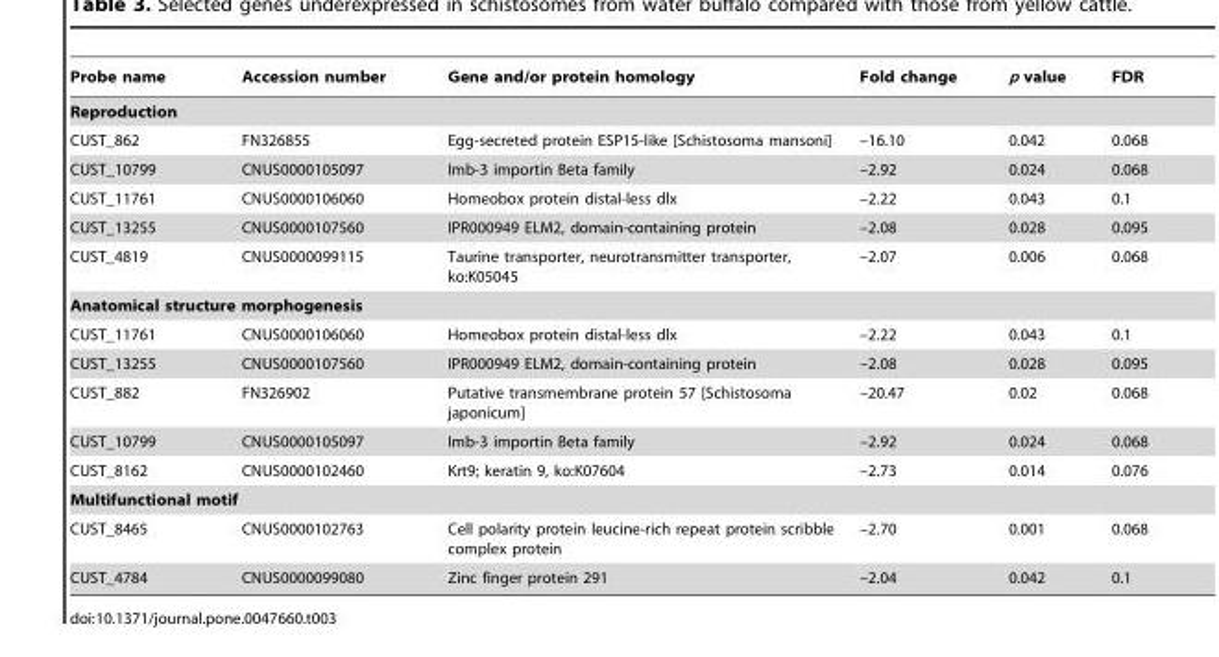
<table><thead><tr><td>Probe name</td><td>Accession number</td><td>Gene and/or protein homology</td><td>Fold change</td><td>p value</td><td>FDR</td></tr></thead><tbody><tr><td colspan="6">Reproduction</td></tr><tr><td>CUST_862</td><td>FN326855</td><td>Egg-secreted protein ESP15-like [Schistosoma mansoni]</td><td>–16.10</td><td>0.042</td><td>0.068</td></tr><tr><td>CUST_10799</td><td>CNUS0000105097</td><td>Imb-3 importin Beta family</td><td>–2.92</td><td>0.024</td><td>0.068</td></tr><tr><td>CUST_11761</td><td>CNUS0000106060</td><td>Homeobox protein distal-less dlx</td><td>–2.22</td><td>0.043</td><td>0.1</td></tr><tr><td>CUST_13255</td><td>CNUS0000107560</td><td>IPR000949 ELM2, domain-containing protein</td><td>–2.08</td><td>0.028</td><td>0.095</td></tr><tr><td>CUST_4819</td><td>CNUS0000099115</td><td>Taurine transporter, neurotransmitter transporter, ko:K05045</td><td>–2.07</td><td>0.006</td><td>0.068</td></tr><tr><td colspan="6">Anatomical structure morphogenesis</td></tr><tr><td>CUST_11761</td><td>CNUS0000106060</td><td>Homeobox protein distal-less dlx</td><td>–2.22</td><td>0.043</td><td>0.1</td></tr><tr><td>CUST_13255</td><td>CNUS0000107560</td><td>IPR000949 ELM2, domain-containing protein</td><td>–2.08</td><td>0.028</td><td>0.095</td></tr><tr><td>CUST_882</td><td>FN326902</td><td>Putative transmembrane protein 57 [Schistosoma japonicum]</td><td>–20.47</td><td>0.02</td><td>0.068</td></tr><tr><td>CUST_10799</td><td>CNUS0000105097</td><td>Imb-3 importin Beta family</td><td>–2.92</td><td>0.024</td><td>0.068</td></tr><tr><td>CUST_8162</td><td>CNUS0000102460</td><td>Krt9; keratin 9, ko:K07604</td><td>–2.73</td><td>0.014</td><td>0.076</td></tr><tr><td colspan="6">Multifunctional motif</td></tr><tr><td>CUST_8465</td><td>CNUS0000102763</td><td>Cell polarity protein leucine-rich repeat protein scribble complex protein</td><td>–2.70</td><td>0.001</td><td>0.068</td></tr><tr><td>CUST_4784</td><td>CNUS0000099080</td><td>Zinc finger protein 291</td><td>–2.04</td><td>0.042</td><td>0.1</td></tr></tbody></table>